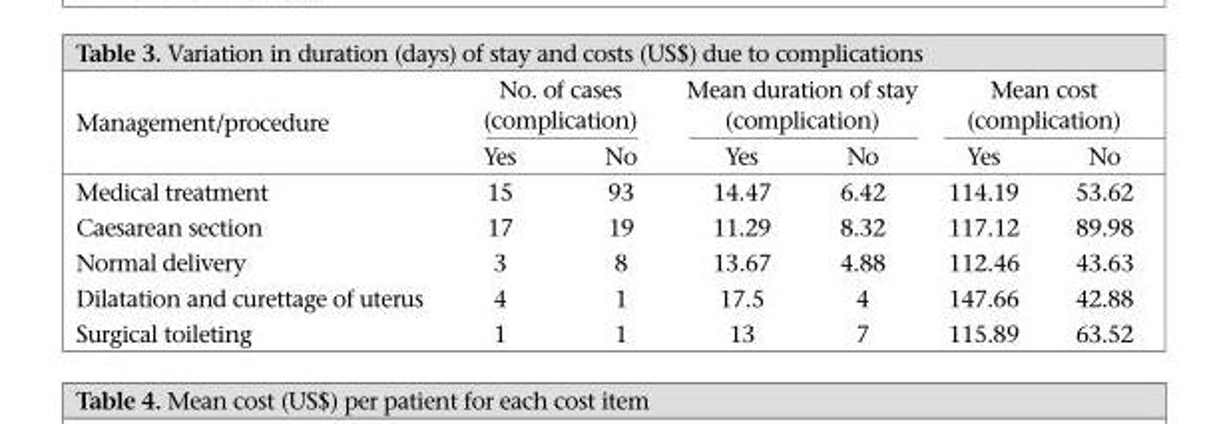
<table><thead><tr><td rowspan="2">Management/procedure</td><td colspan="2">No. of cases (complication)</td><td colspan="2">Mean duration of stay (complication)</td><td colspan="2">Mean cost (complication)</td></tr><tr><td>Yes</td><td>No</td><td>Yes</td><td>No</td><td>Yes</td><td>No</td></tr></thead><tbody><tr><td>Medical treatment</td><td>15</td><td>93</td><td>14.47</td><td>6.42</td><td>114.19</td><td>53.62</td></tr><tr><td>Caesarean section</td><td>17</td><td>19</td><td>11.29</td><td>8.32</td><td>117.12</td><td>89.98</td></tr><tr><td>Normal delivery</td><td>3</td><td>8</td><td>13.67</td><td>4.88</td><td>112.46</td><td>43.63</td></tr><tr><td>Dilatation and curettage of uterus</td><td>4</td><td>1</td><td>17.5</td><td>4</td><td>147.66</td><td>42.88</td></tr><tr><td>Surgical toileting</td><td>1</td><td>1</td><td>13</td><td>7</td><td>115.89</td><td>63.52</td></tr></tbody></table>